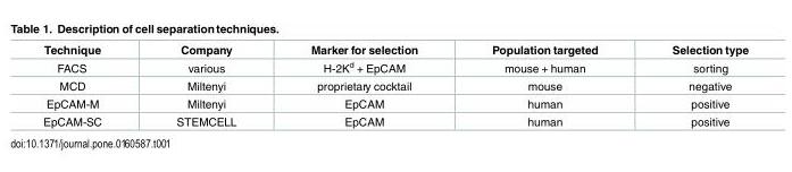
<table><thead><tr><td>Technique</td><td>Company</td><td>Marker for selection</td><td>Population targeted</td><td>Selection type</td></tr></thead><tbody><tr><td>FACS</td><td>various</td><td>H-2K<sup>d</sup> + EpCAM</td><td>mouse + human</td><td>sorting</td></tr><tr><td>MCD</td><td>Miltenyi</td><td>proprietary cocktail</td><td>mouse</td><td>negative</td></tr><tr><td>EpCAM-M</td><td>Miltenyi</td><td>EpCAM</td><td>human</td><td>positive</td></tr><tr><td>EpCAM-SC</td><td>STEMCELL</td><td>EpCAM</td><td>human</td><td>positive</td></tr></tbody></table>